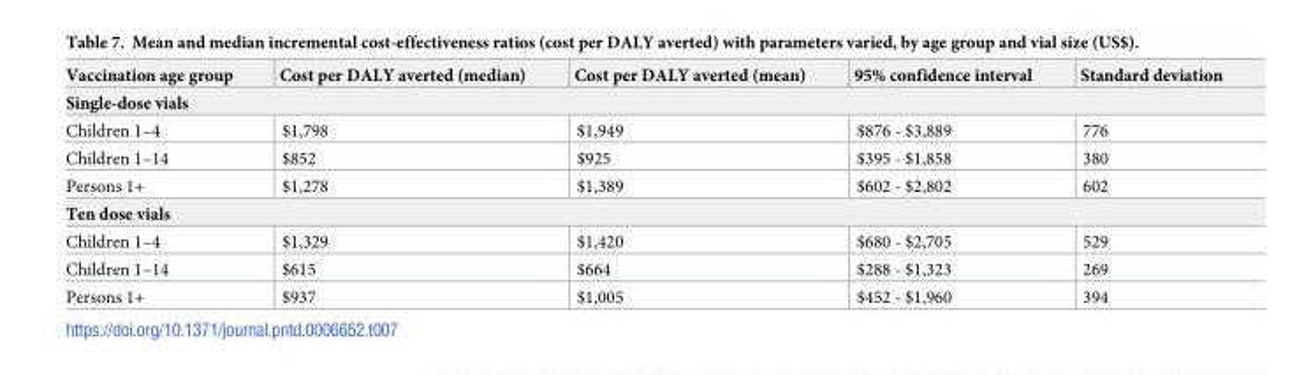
<table><thead><tr><td>Vaccination age group</td><td>Cost per DALY averted (median)</td><td>Cost per DALY averted (mean)</td><td>95% confidence interval</td><td>Standard deviation</td></tr></thead><tbody><tr><td colspan="5">Single-dose vials</td></tr><tr><td>Children 1–4</td><td>$1,798</td><td>$1,949</td><td>$876 - $3,889</td><td>776</td></tr><tr><td>Children 1–14</td><td>$852</td><td>$925</td><td>$395 - $1,858</td><td>380</td></tr><tr><td>Persons 1+</td><td>$1,278</td><td>$1,389</td><td>$602 - $2,802</td><td>602</td></tr><tr><td colspan="5">Ten dose vials</td></tr><tr><td>Children 1–4</td><td>$1,329</td><td>$1,420</td><td>$680 - $2,705</td><td>529</td></tr><tr><td>Children 1–14</td><td>$615</td><td>$664</td><td>$288 - $1,323</td><td>269</td></tr><tr><td>Persons 1+</td><td>$937</td><td>$1,005</td><td>$452 - $1,960</td><td>394</td></tr></tbody></table>